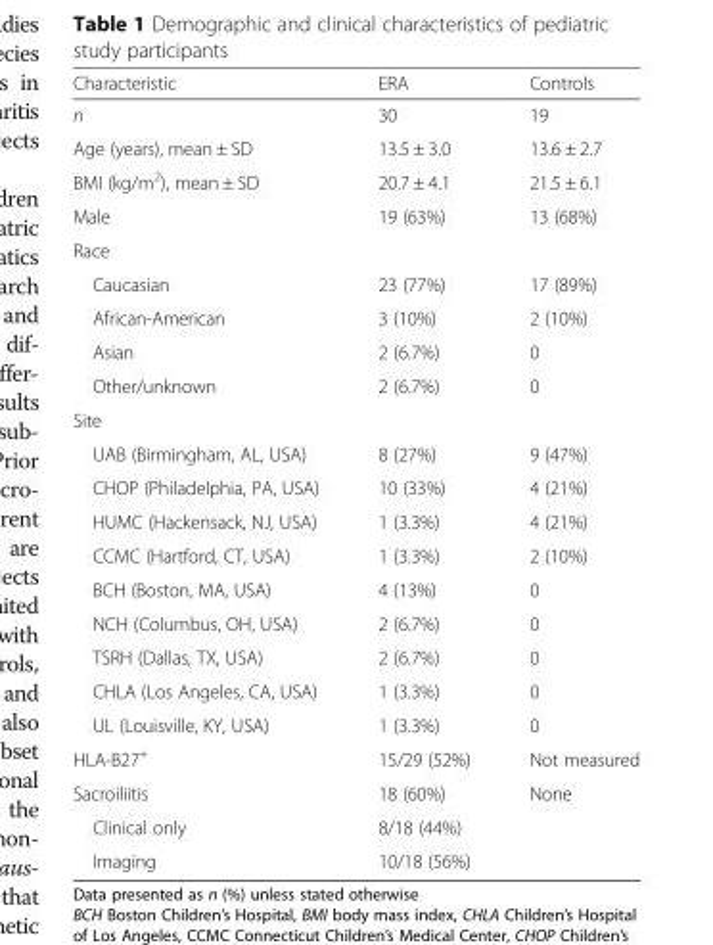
<table><thead><tr><td>Characteristic</td><td>ERA</td><td>Controls</td></tr></thead><tbody><tr><td>n</td><td>30</td><td>19</td></tr><tr><td>Age (years), mean ± SD</td><td>13.5 ± 3.0</td><td>13.6 ± 2.7</td></tr><tr><td>BMI (kg/m<sup>2</sup>), mean ± SD</td><td>20.7 ± 4.1</td><td>21.5 ± 6.1</td></tr><tr><td>Male</td><td>19 (63%)</td><td>13 (68%)</td></tr><tr><td colspan="3">Race</td></tr><tr><td>Caucasian</td><td>23 (77%)</td><td>17 (89%)</td></tr><tr><td>African-American</td><td>3 (10%)</td><td>2 (10%)</td></tr><tr><td>Asian</td><td>2 (6.7%)</td><td>0</td></tr><tr><td>Other/unknown</td><td>2 (6.7%)</td><td>0</td></tr><tr><td colspan="3">Site</td></tr><tr><td>UAB (Birmingham, AL, USA)</td><td>8 (27%)</td><td>9 (47%)</td></tr><tr><td>CHOP (Philadelphia, PA, USA)</td><td>10 (33%)</td><td>4 (21%)</td></tr><tr><td>HUMC (Hackensack, NJ, USA)</td><td>1 (3.3%)</td><td>4 (21%)</td></tr><tr><td>CCMC (Hartford, CT, USA)</td><td>1 (3.3%)</td><td>2 (10%)</td></tr><tr><td>BCH (Boston, MA, USA)</td><td>4 (13%)</td><td>0</td></tr><tr><td>NCH (Columbus, OH, USA)</td><td>2 (6.7%)</td><td>0</td></tr><tr><td>TSRH (Dallas, TX, USA)</td><td>2 (6.7%)</td><td>0</td></tr><tr><td>CHLA (Los Angeles, CA, USA)</td><td>1 (3.3%)</td><td>0</td></tr><tr><td>UL (Louisville, KY, USA)</td><td>1 (3.3%)</td><td>0</td></tr><tr><td>HLA-B27<sup>+</sup></td><td>15/29 (52%)</td><td>Not measured</td></tr><tr><td>Sacroiliitis</td><td>18 (60%)</td><td rowspan="3">None</td></tr><tr><td>Clinical only</td><td>8/18 (44%)</td></tr><tr><td>Imaging</td><td>10/18 (56%)</td></tr></tbody></table>